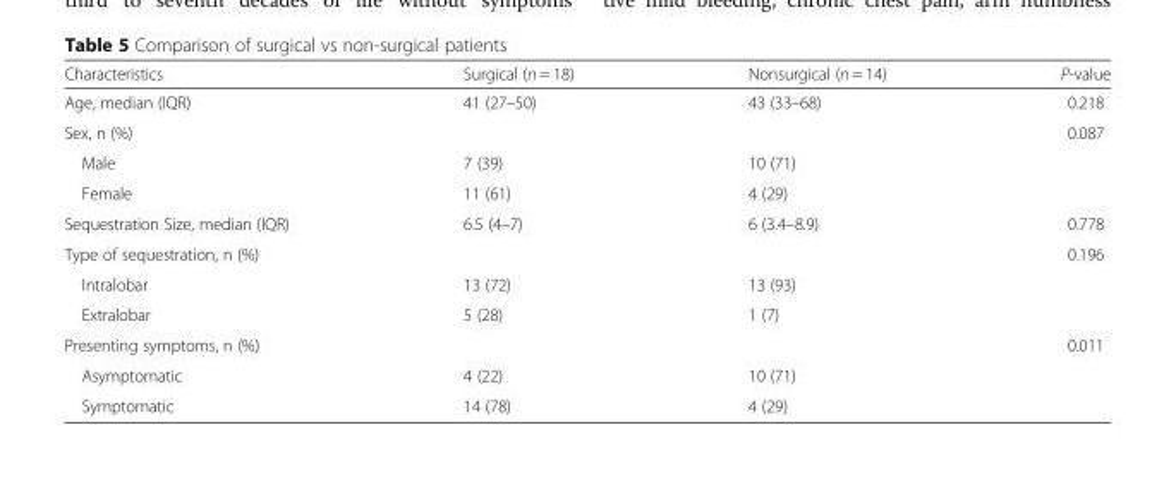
<table><thead><tr><td>Characteristics</td><td>Surgical (n = 18)</td><td>Nonsurgical (n = 14)</td><td>P-value</td></tr></thead><tbody><tr><td>Age, median (IQR)</td><td>41 (27–50)</td><td>43 (33–68)</td><td>0.218</td></tr><tr><td>Sex, n (%)</td><td></td><td></td><td>0.087</td></tr><tr><td>Male</td><td>7 (39)</td><td>10 (71)</td><td></td></tr><tr><td>Female</td><td>11 (61)</td><td>4 (29)</td><td></td></tr><tr><td>Sequestration Size, median (IQR)</td><td>6.5 (4–7)</td><td>6 (3.4–8.9)</td><td>0.778</td></tr><tr><td>Type of sequestration, n (%)</td><td></td><td></td><td>0.196</td></tr><tr><td>Intralobar</td><td>13 (72)</td><td>13 (93)</td><td></td></tr><tr><td>Extralobar</td><td>5 (28)</td><td>1 (7)</td><td></td></tr><tr><td>Presenting symptoms, n (%)</td><td></td><td></td><td>0.011</td></tr><tr><td>Asymptomatic</td><td>4 (22)</td><td>10 (71)</td><td></td></tr><tr><td>Symptomatic</td><td>14 (78)</td><td>4 (29)</td><td></td></tr></tbody></table>